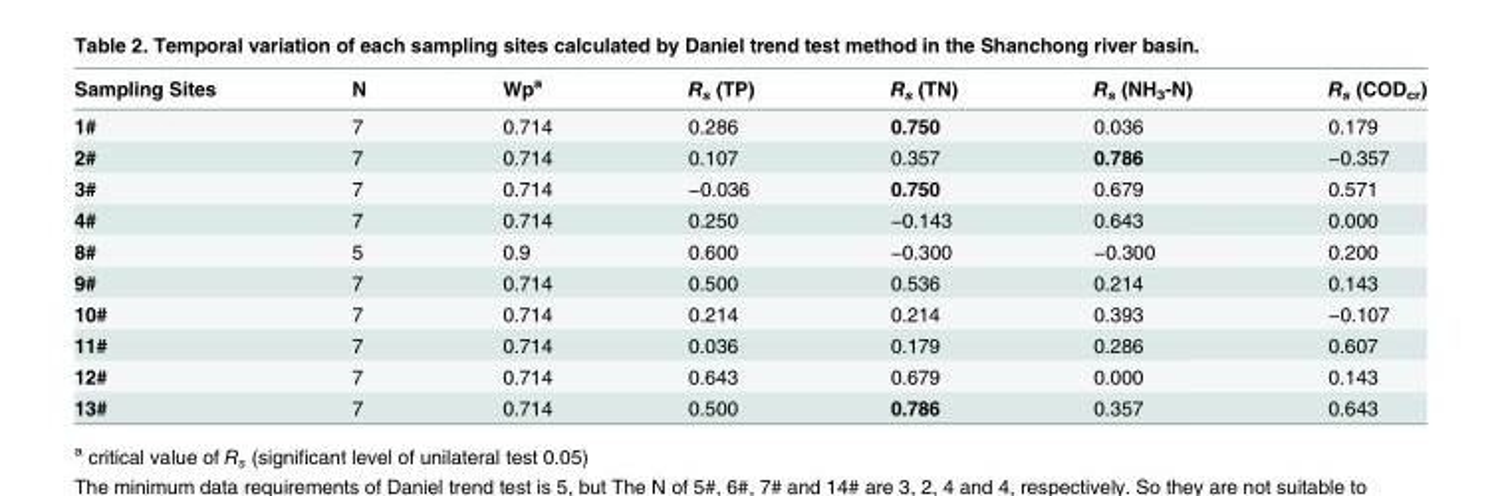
<table><thead><tr><td>Sampling Sites</td><td>N</td><td>Wp<sup>a</sup></td><td>R<sub>s</sub> (TP)</td><td>R<sub>s</sub> (TN)</td><td>R<sub>s</sub> (NH<sub>3</sub>-N)</td><td>R<sub>s</sub> (COD<sub>cr</sub>)</td></tr></thead><tbody><tr><td>1#</td><td>7</td><td>0.714</td><td>0.286</td><td>0.750</td><td>0.036</td><td>0.179</td></tr><tr><td>2#</td><td>7</td><td>0.714</td><td>0.107</td><td>0.357</td><td>0.786</td><td>−0.357</td></tr><tr><td>3#</td><td>7</td><td>0.714</td><td>−0.036</td><td>0.750</td><td>0.679</td><td>0.571</td></tr><tr><td>4#</td><td>7</td><td>0.714</td><td>0.250</td><td>−0.143</td><td>0.643</td><td>0.000</td></tr><tr><td>8#</td><td>5</td><td>0.9</td><td>0.600</td><td>−0.300</td><td>−0.300</td><td>0.200</td></tr><tr><td>9#</td><td>7</td><td>0.714</td><td>0.500</td><td>0.536</td><td>0.214</td><td>0.143</td></tr><tr><td>10#</td><td>7</td><td>0.714</td><td>0.214</td><td>0.214</td><td>0.393</td><td>−0.107</td></tr><tr><td>11#</td><td>7</td><td>0.714</td><td>0.036</td><td>0.179</td><td>0.286</td><td>0.607</td></tr><tr><td>12#</td><td>7</td><td>0.714</td><td>0.643</td><td>0.679</td><td>0.000</td><td>0.143</td></tr><tr><td>13#</td><td>7</td><td>0.714</td><td>0.500</td><td>0.786</td><td>0.357</td><td>0.643</td></tr></tbody></table>